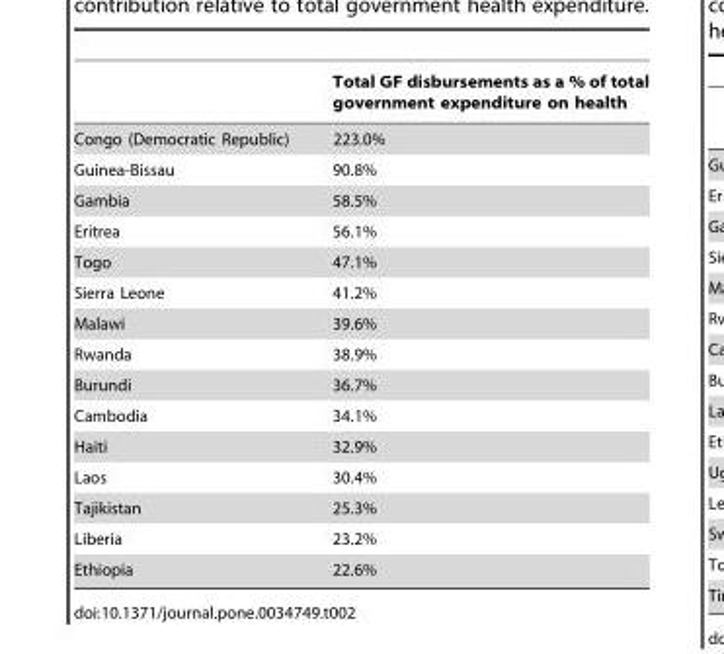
<table><thead><tr><td></td><td>Total GF disbursements as a % of total government expenditure on health</td></tr></thead><tbody><tr><td>Congo (Democratic Republic)</td><td>223.0%</td></tr><tr><td>Guinea-Bissau</td><td>90.8%</td></tr><tr><td>Gambia</td><td>58.5%</td></tr><tr><td>Eritrea</td><td>56.1%</td></tr><tr><td>Togo</td><td>47.1%</td></tr><tr><td>Sierra Leone</td><td>41.2%</td></tr><tr><td>Malawi</td><td>39.6%</td></tr><tr><td>Rwanda</td><td>38.9%</td></tr><tr><td>Burundi</td><td>36.7%</td></tr><tr><td>Cambodia</td><td>34.1%</td></tr><tr><td>Haiti</td><td>32.9%</td></tr><tr><td>Laos</td><td>30.4%</td></tr><tr><td>Tajikistan</td><td>25.3%</td></tr><tr><td>Liberia</td><td>23.2%</td></tr><tr><td>Ethiopia</td><td>22.6%</td></tr></tbody></table>